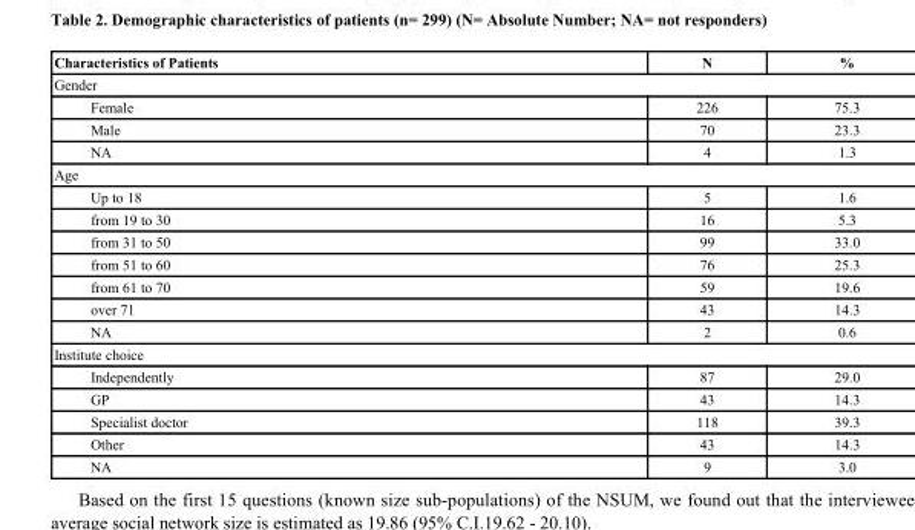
<table><thead><tr><td>Characteristics of Patients</td><td>N</td><td>%</td></tr></thead><tbody><tr><td colspan="3">Gender</td></tr><tr><td>Female</td><td>226</td><td>75.3</td></tr><tr><td>Male</td><td>70</td><td>23.3</td></tr><tr><td>NA</td><td>4</td><td>1.3</td></tr><tr><td colspan="3">Age</td></tr><tr><td>Up to 18</td><td>5</td><td>1.6</td></tr><tr><td>from 19 to 30</td><td>16</td><td>5.3</td></tr><tr><td>from 31 to 50</td><td>99</td><td>33.0</td></tr><tr><td>from 51 to 60</td><td>76</td><td>25.3</td></tr><tr><td>from 61 to 70</td><td>59</td><td>19.6</td></tr><tr><td>over 71</td><td>43</td><td>14.3</td></tr><tr><td>NA</td><td>2</td><td>0.6</td></tr><tr><td colspan="3">Institute choice</td></tr><tr><td>Independently</td><td>87</td><td>29.0</td></tr><tr><td>GP</td><td>43</td><td>14.3</td></tr><tr><td>Specialist doctor</td><td>118</td><td>39.3</td></tr><tr><td>Other</td><td>43</td><td>14.3</td></tr><tr><td>NA</td><td>9</td><td>3.0</td></tr></tbody></table>